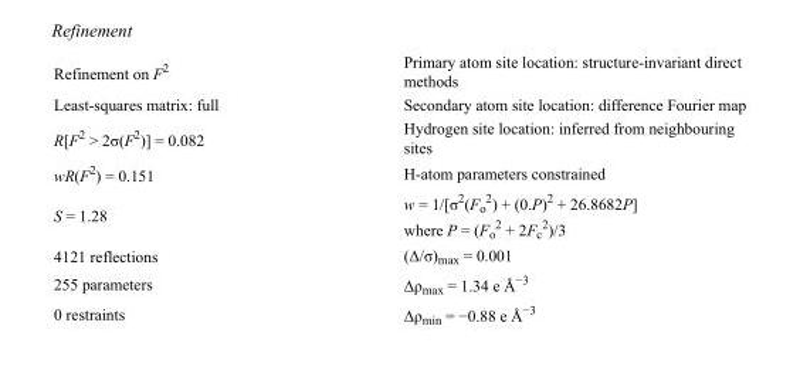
<table><tbody><tr><td>Refinement on F<sup>2</sup></td><td>Primary atom site location: structure-invariant direct methods</td></tr><tr><td>Least-squares matrix: full</td><td>Secondary atom site location: difference Fourier map</td></tr><tr><td>R[F<sup>2</sup> &gt; 2σ(F<sup>2</sup>)] = 0.082</td><td>Hydrogen site location: inferred from neighbouring sites</td></tr><tr><td>wR(F<sup>2</sup>) = 0.151</td><td>H-atom parameters constrained</td></tr><tr><td>S = 1.28</td><td>w = 1/[σ<sup>2</sup>(F<sub>o</sub> <sup>2</sup>) + (0.P)<sup>2</sup> + 26.8682P] where P = (F<sub>o</sub> <sup>2</sup> + 2F<sub>c</sub> <sup>2</sup>)/3</td></tr><tr><td>4121 reflections</td><td>(Δ/σ)<sub>max</sub> = 0.001</td></tr><tr><td>255 parameters</td><td>Δρ<sub>max</sub> = 1.34 e Å<sup>−3</sup></td></tr><tr><td>0 restraints</td><td>Δρ<sub>min</sub> = −0.88 e Å<sup>−3</sup></td></tr></tbody></table>